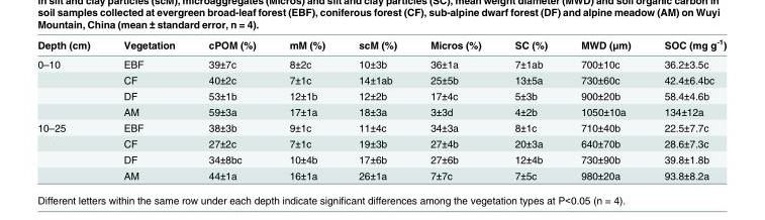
<table><thead><tr><td>Depth (cm)</td><td>Vegetation</td><td>cPOM (%)</td><td>mM (%)</td><td>scM (%)</td><td>Micros (%)</td><td>SC (%)</td><td>MWD (μm)</td><td>SOC (mg g<sup>-1</sup>)</td></tr></thead><tbody><tr><td rowspan="4">0–10</td><td>EBF</td><td>39±7c</td><td>8±2c</td><td>10±3b</td><td>36±1a</td><td>7±1ab</td><td>700±10c</td><td>36.2±3.5c</td></tr><tr><td>CF</td><td>40±2c</td><td>7±1c</td><td>14±1ab</td><td>25±5b</td><td>13±5a</td><td>730±60c</td><td>42.4±6.4bc</td></tr><tr><td>DF</td><td>53±1b</td><td>12±1b</td><td>12±2b</td><td>17±4c</td><td>5±3b</td><td>900±20b</td><td>58.4±4.6b</td></tr><tr><td>AM</td><td>59±3a</td><td>17±1a</td><td>18±3a</td><td>3±3d</td><td>4±2b</td><td>1050±10a</td><td>134±12a</td></tr><tr><td rowspan="4">10–25</td><td>EBF</td><td>38±3b</td><td>9±1c</td><td>11±4c</td><td>34±3a</td><td>8±1c</td><td>710±40b</td><td>22.5±7.7c</td></tr><tr><td>CF</td><td>27±2c</td><td>7±1c</td><td>19±3b</td><td>27±4b</td><td>20±3a</td><td>640±70b</td><td>28.6±7.3c</td></tr><tr><td>DF</td><td>34±8bc</td><td>10±4b</td><td>17±6b</td><td>27±6b</td><td>12±4b</td><td>730±90b</td><td>39.8±1.8b</td></tr><tr><td>AM</td><td>44±1a</td><td>16±1a</td><td>26±1a</td><td>7±7c</td><td>7±5c</td><td>980±20a</td><td>93.8±8.2a</td></tr></tbody></table>